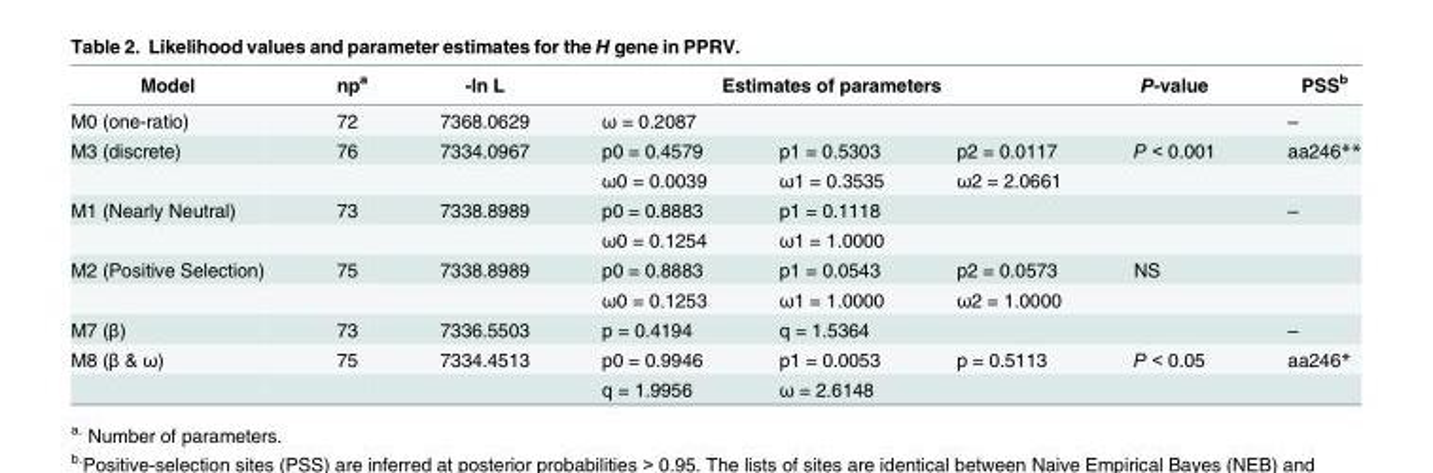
<table><thead><tr><td rowspan="2">Model M0 (one-ratio)</td><td rowspan="2">np<sup>a</sup> 72</td><td rowspan="2">-ln L 7368.0629</td><td colspan="3">Estimates of parameters</td><td rowspan="2">P-value</td><td rowspan="2">PSSb –</td></tr><tr><td>ω = 0.2087</td><td></td><td></td></tr></thead><tbody><tr><td rowspan="2">M3 (discrete)</td><td>76</td><td>7334.0967</td><td>p0 = 0.4579</td><td>p1 = 0.5303</td><td>p2 = 0.0117</td><td>P &lt; 0.001</td><td>aa246**</td></tr><tr><td></td><td></td><td>ω0 = 0.0039</td><td>ω1 = 0.3535</td><td>ω2 = 2.0661</td><td></td><td></td></tr><tr><td rowspan="2">M1 (Nearly Neutral)</td><td>73</td><td>7338.8989</td><td>p0 = 0.8883</td><td>p1 = 0.1118</td><td></td><td></td><td>–</td></tr><tr><td></td><td></td><td>ω0 = 0.1254</td><td>ω1 = 1.0000</td><td></td><td></td><td></td></tr><tr><td rowspan="2">M2 (Positive Selection)</td><td>75</td><td>7338.8989</td><td>p0 = 0.8883</td><td>p1 = 0.0543</td><td>p2 = 0.0573</td><td>NS</td><td></td></tr><tr><td></td><td></td><td>ω0 = 0.1253</td><td>ω1 = 1.0000</td><td>ω2 = 1.0000</td><td></td><td></td></tr><tr><td>M7 (β)</td><td>73</td><td>7336.5503</td><td>p = 0.4194</td><td>q = 1.5364</td><td></td><td></td><td>–</td></tr><tr><td rowspan="2">M8 (β &amp; ω)</td><td>75</td><td>7334.4513</td><td>p0 = 0.9946</td><td>p1 = 0.0053</td><td>p = 0.5113</td><td>P &lt; 0.05</td><td>aa246*</td></tr><tr><td></td><td></td><td>q = 1.9956</td><td>ω = 2.6148</td><td></td><td></td><td></td></tr></tbody></table>